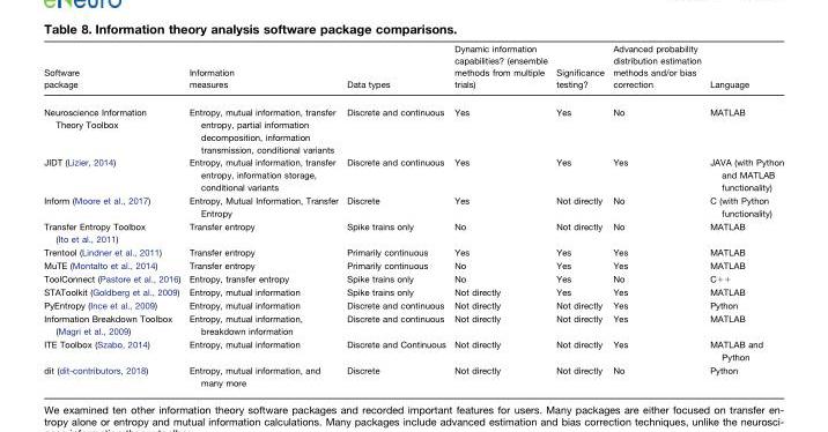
<table><thead><tr><td>Software package</td><td>Information measures</td><td>Data types</td><td>Dynamic information capabilities? (ensemble methods from multiple trials)</td><td>Significance testing?</td><td>Advanced probability distribution estimation methods and/or bias correction</td><td>Language</td></tr></thead><tbody><tr><td>Neuroscience Information Theory Toolbox</td><td>Entropy, mutual information, transfer entropy, partial information decomposition, information transmission, conditional variants</td><td>Discrete and continuous</td><td>Yes</td><td>Yes</td><td>No</td><td>MATLAB</td></tr><tr><td>JIDT (Lizier, 2014)</td><td>Entropy, mutual information, transfer entropy, information storage, conditional variants</td><td>Discrete and continuous</td><td>Yes</td><td>Yes</td><td>Yes</td><td>JAVA (with Python and MATLAB functionality)</td></tr><tr><td>Inform (Moore et al., 2017)</td><td>Entropy, Mutual Information, Transfer Entropy</td><td>Discrete</td><td>Yes</td><td>Not directly</td><td>No</td><td>C (with Python functionality)</td></tr><tr><td>Transfer Entropy Toolbox (Ito et al., 2011)</td><td>Transfer entropy</td><td>Spike trains only</td><td>No</td><td>Not directly</td><td>No</td><td>MATLAB</td></tr><tr><td>Trentool (Lindner et al., 2011)</td><td>Transfer entropy</td><td>Primarily continuous</td><td>Yes</td><td>Yes</td><td>Yes</td><td>MATLAB</td></tr><tr><td>MuTE (Montalto et al., 2014)</td><td>Transfer entropy</td><td>Primarily continuous</td><td>No</td><td>Yes</td><td>Yes</td><td>MATLAB</td></tr><tr><td>ToolConnect (Pastore et al., 2016)</td><td>Entropy, transfer entropy</td><td>Spike trains only</td><td>No</td><td>Yes</td><td>No</td><td>C++</td></tr><tr><td>STAToolkit (Goldberg et al., 2009)</td><td>Entropy, mutual information</td><td>Spike trains only</td><td>Not directly</td><td>Yes</td><td>Yes</td><td>MATLAB</td></tr><tr><td>PyEntropy (Ince et al., 2009)</td><td>Entropy, mutual information</td><td>Discrete and continuous</td><td>Not directly</td><td>Not directly</td><td>Yes</td><td>Python</td></tr><tr><td>Information Breakdown Toolbox (Magri et al., 2009)</td><td>Entropy, mutual information, breakdown information</td><td>Discrete and continuous</td><td>Not directly</td><td>Not directly</td><td>Yes</td><td>MATLAB</td></tr><tr><td>ITE Toolbox (Szabo, 2014)</td><td>Entropy, mutual information</td><td>Discrete and Continuous</td><td>Not directly</td><td>Not directly</td><td>Yes</td><td>MATLAB and Python</td></tr><tr><td>dit (dit-contributors, 2018)</td><td>Entropy, mutual information, and many more</td><td>Discrete</td><td>Not directly</td><td>Not directly</td><td>No</td><td>Python</td></tr></tbody></table>